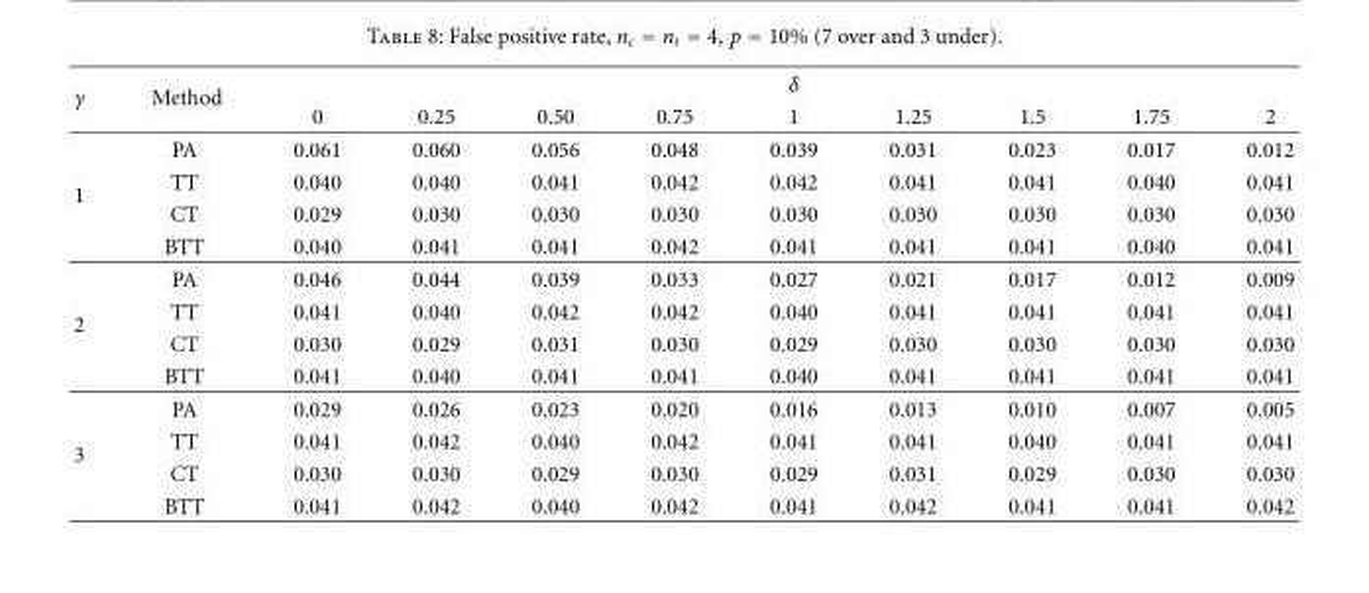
<table><thead><tr><td rowspan="2">γ</td><td rowspan="2">Method</td><td colspan="9">δ</td></tr><tr><td>0</td><td>0.25</td><td>0.50</td><td>0.75</td><td>1</td><td>1.25</td><td>1.5</td><td>1.75</td><td>2</td></tr></thead><tbody><tr><td rowspan="4">1</td><td>PA</td><td>0.061</td><td>0.060</td><td>0.056</td><td>0.048</td><td>0.039</td><td>0.031</td><td>0.023</td><td>0.017</td><td>0.012</td></tr><tr><td>TT</td><td>0.040</td><td>0.040</td><td>0.041</td><td>0.042</td><td>0.042</td><td>0.041</td><td>0.041</td><td>0.040</td><td>0.041</td></tr><tr><td>CT</td><td>0.029</td><td>0.030</td><td>0.030</td><td>0.030</td><td>0.030</td><td>0.030</td><td>0.030</td><td>0.030</td><td>0.030</td></tr><tr><td>BTT</td><td>0.040</td><td>0.041</td><td>0.041</td><td>0.042</td><td>0.041</td><td>0.041</td><td>0.041</td><td>0.040</td><td>0.041</td></tr><tr><td rowspan="4">2</td><td>PA</td><td>0.046</td><td>0.044</td><td>0.039</td><td>0.033</td><td>0.027</td><td>0.021</td><td>0.017</td><td>0.012</td><td>0.009</td></tr><tr><td>TT</td><td>0.041</td><td>0.040</td><td>0.042</td><td>0.042</td><td>0.040</td><td>0.041</td><td>0.041</td><td>0.041</td><td>0.041</td></tr><tr><td>CT</td><td>0.030</td><td>0.029</td><td>0.031</td><td>0.030</td><td>0.029</td><td>0.030</td><td>0.030</td><td>0.030</td><td>0.030</td></tr><tr><td>BTT</td><td>0.041</td><td>0.040</td><td>0.041</td><td>0.041</td><td>0.040</td><td>0.041</td><td>0.041</td><td>0.041</td><td>0.041</td></tr><tr><td rowspan="4">3</td><td>PA</td><td>0.029</td><td>0.026</td><td>0.023</td><td>0.020</td><td>0.016</td><td>0.013</td><td>0.010</td><td>0.007</td><td>0.005</td></tr><tr><td>TT</td><td>0.041</td><td>0.042</td><td>0.040</td><td>0.042</td><td>0.041</td><td>0.041</td><td>0.040</td><td>0.041</td><td>0.041</td></tr><tr><td>CT</td><td>0.030</td><td>0.030</td><td>0.029</td><td>0.030</td><td>0.029</td><td>0.031</td><td>0.029</td><td>0.030</td><td>0.030</td></tr><tr><td>BTT</td><td>0.041</td><td>0.042</td><td>0.040</td><td>0.042</td><td>0.041</td><td>0.042</td><td>0.041</td><td>0.041</td><td>0.042</td></tr></tbody></table>